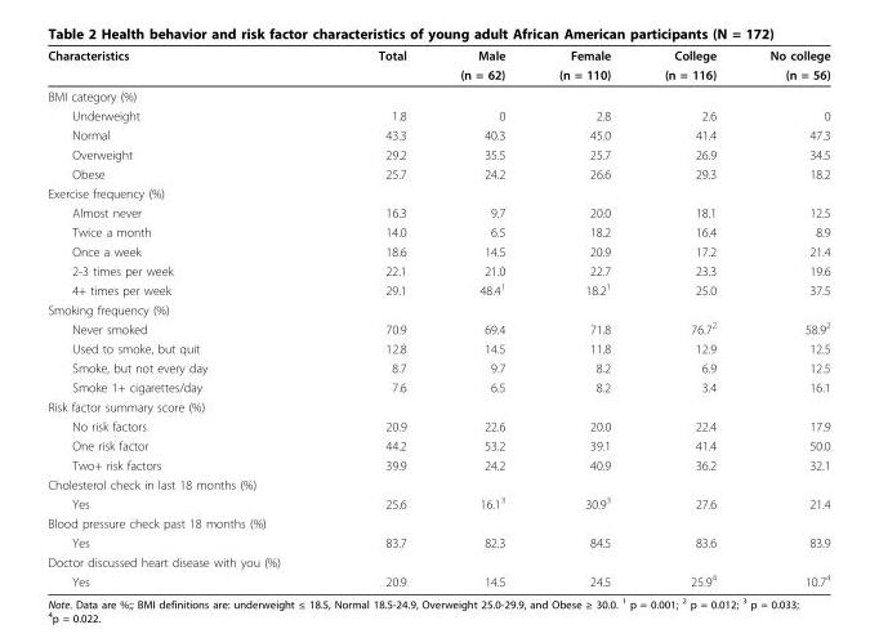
<table><thead><tr><td rowspan="2">Characteristics</td><td rowspan="2">Total</td><td rowspan="2">Male (n = 62)</td><td rowspan="2">Female (n = 110)</td><td rowspan="2">College (n = 116)</td><td rowspan="2">No college (n = 56)</td></tr><tr></tr></thead><tbody><tr><td colspan="6">BMI category (%)</td></tr><tr><td>Underweight</td><td>1.8</td><td>0</td><td>2.8</td><td>2.6</td><td>0</td></tr><tr><td>Normal</td><td>43.3</td><td>40.3</td><td>45.0</td><td>41.4</td><td>47.3</td></tr><tr><td>Overweight</td><td>29.2</td><td>35.5</td><td>25.7</td><td>26.9</td><td>34.5</td></tr><tr><td>Obese</td><td>25.7</td><td>24.2</td><td>26.6</td><td>29.3</td><td>18.2</td></tr><tr><td colspan="6">Exercise frequency (%)</td></tr><tr><td>Almost never</td><td>16.3</td><td>9.7</td><td>20.0</td><td>18.1</td><td>12.5</td></tr><tr><td>Twice a month</td><td>14.0</td><td>6.5</td><td>18.2</td><td>16.4</td><td>8.9</td></tr><tr><td>Once a week</td><td>18.6</td><td>14.5</td><td>20.9</td><td>17.2</td><td>21.4</td></tr><tr><td>2-3 times per week</td><td>22.1</td><td>21.0</td><td>22.7</td><td>23.3</td><td>19.6</td></tr><tr><td>4+ times per week</td><td>29.1</td><td>48.4<sup>1</sup></td><td>18.2<sup>1</sup></td><td>25.0</td><td>37.5</td></tr><tr><td colspan="6">Smoking frequency (%)</td></tr><tr><td>Never smoked</td><td>70.9</td><td>69.4</td><td>71.8</td><td>76.7<sup>2</sup></td><td>58.9<sup>2</sup></td></tr><tr><td>Used to smoke, but quit</td><td>12.8</td><td>14.5</td><td>11.8</td><td>12.9</td><td>12.5</td></tr><tr><td>Smoke, but not every day</td><td>8.7</td><td>9.7</td><td>8.2</td><td>6.9</td><td>12.5</td></tr><tr><td>Smoke 1+ cigarettes/day</td><td>7.6</td><td>6.5</td><td>8.2</td><td>3.4</td><td>16.1</td></tr><tr><td colspan="6">Risk factor summary score (%)</td></tr><tr><td>No risk factors</td><td>20.9</td><td>22.6</td><td>20.0</td><td>22.4</td><td>17.9</td></tr><tr><td>One risk factor</td><td>44.2</td><td>53.2</td><td>39.1</td><td>41.4</td><td>50.0</td></tr><tr><td>Two+ risk factors</td><td>39.9</td><td>24.2</td><td>40.9</td><td>36.2</td><td>32.1</td></tr><tr><td colspan="6">Cholesterol check in last 18 months (%)</td></tr><tr><td>Yes</td><td>25.6</td><td>16.1<sup>3</sup></td><td>30.9<sup>3</sup></td><td>27.6</td><td>21.4</td></tr><tr><td colspan="6">Blood pressure check past 18 months (%)</td></tr><tr><td>Yes</td><td>83.7</td><td>82.3</td><td>84.5</td><td>83.6</td><td>83.9</td></tr><tr><td colspan="6">Doctor discussed heart disease with you (%)</td></tr><tr><td>Yes</td><td>20.9</td><td>14.5</td><td>24.5</td><td>25.9<sup>4</sup></td><td>10.7<sup>4</sup></td></tr></tbody></table>